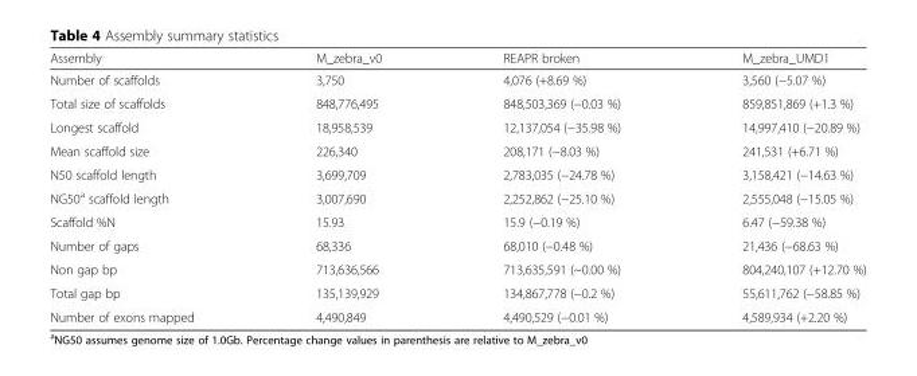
<table><thead><tr><td>Assembly</td><td>M_zebra_v0</td><td>REAPR broken</td><td>M_zebra_UMD1</td></tr></thead><tbody><tr><td>Number of scaffolds</td><td>3,750</td><td>4,076 (+8.69 %)</td><td>3,560 (−5.07 %)</td></tr><tr><td>Total size of scaffolds</td><td>848,776,495</td><td>848,503,369 (−0.03 %)</td><td>859,851,869 (+1.3 %)</td></tr><tr><td>Longest scaffold</td><td>18,958,539</td><td>12,137,054 (−35.98 %)</td><td>14,997,410 (−20.89 %)</td></tr><tr><td>Mean scaffold size</td><td>226,340</td><td>208,171 (−8.03 %)</td><td>241,531 (+6.71 %)</td></tr><tr><td>N50 scaffold length</td><td>3,699,709</td><td>2,783,035 (−24.78 %)</td><td>3,158,421 (−14.63 %)</td></tr><tr><td>NG50<sup>a</sup> scaffold length</td><td>3,007,690</td><td>2,252,862 (−25.10 %)</td><td>2,555,048 (−15.05 %)</td></tr><tr><td>Scaffold %N</td><td>15.93</td><td>15.9 (−0.19 %)</td><td>6.47 (−59.38 %)</td></tr><tr><td>Number of gaps</td><td>68,336</td><td>68,010 (−0.48 %)</td><td>21,436 (−68.63 %)</td></tr><tr><td>Non gap bp</td><td>713,636,566</td><td>713,635,591 (~0.00 %)</td><td>804,240,107 (+12.70 %)</td></tr><tr><td>Total gap bp</td><td>135,139,929</td><td>134,867,778 (−0.2 %)</td><td>55,611,762 (−58.85 %)</td></tr><tr><td>Number of exons mapped</td><td>4,490,849</td><td>4,490,529 (−0.01 %)</td><td>4,589,934 (+2.20 %)</td></tr></tbody></table>